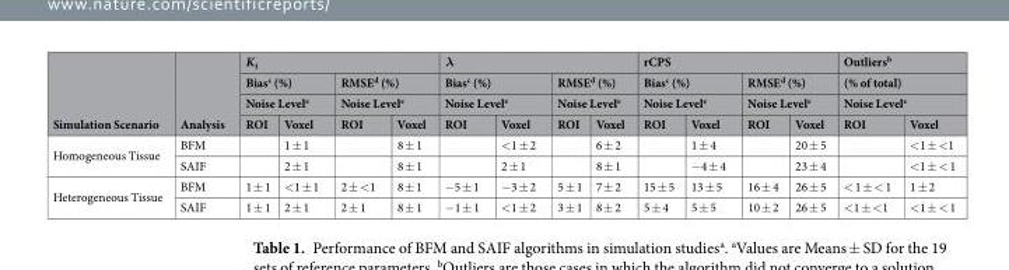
<table><thead><tr><td rowspan="4">Simulation Scenario</td><td rowspan="4">Analysis</td><td colspan="4">K<sub>1</sub></td><td colspan="4">λ</td><td colspan="4">rCPS</td><td rowspan="3" colspan="2">Outliers<sup>b</sup> (% of total) Noise Level<sup>e</sup></td></tr><tr><td rowspan="2" colspan="2">Bias<sup>c</sup> (%) Noise Level<sup>e</sup></td><td rowspan="2" colspan="2">RMSE<sup>d</sup> (%) Noise Level<sup>e</sup></td><td rowspan="2" colspan="2">Bias<sup>c</sup> (%) Noise Level<sup>e</sup></td><td rowspan="2" colspan="2">RMSE<sup>d</sup> (%) Noise Level<sup>e</sup></td><td rowspan="2" colspan="2">Bias<sup>c</sup> (%) Noise Level<sup>e</sup></td><td rowspan="2" colspan="2">RMSE<sup>d</sup> (%) Noise Level<sup>e</sup></td></tr><tr></tr><tr><td>ROI</td><td>Voxel</td><td>ROI</td><td>Voxel</td><td>ROI</td><td>Voxel</td><td>ROI</td><td>Voxel</td><td>ROI</td><td>Voxel</td><td>ROI</td><td>Voxel</td><td>ROI</td><td>Voxel</td></tr></thead><tbody><tr><td rowspan="2">Homogeneous Tissue</td><td>BFM</td><td></td><td>1 ± 1</td><td></td><td>8 ± 1</td><td></td><td>&lt;1 ± 2</td><td></td><td>6 ± 2</td><td></td><td>1 ± 4</td><td></td><td>20 ± 5</td><td></td><td>&lt;1 ± &lt;1</td></tr><tr><td>SAIF</td><td></td><td>2 ± 1</td><td></td><td>8 ± 1</td><td></td><td>2 ± 1</td><td></td><td>8 ± 1</td><td></td><td>−4 ± 4</td><td></td><td>23 ± 4</td><td></td><td>&lt;1 ± &lt; 1</td></tr><tr><td rowspan="2">Heterogeneous Tissue</td><td>BFM</td><td>1 ± 1</td><td>&lt;1 ± 1</td><td>2 ± &lt;1</td><td>8 ± 1</td><td>−5 ± 1</td><td>−3 ± 2</td><td>5 ± 1</td><td>7 ± 2</td><td>15 ± 5</td><td>13 ± 5</td><td>16 ± 4</td><td>26 ± 5</td><td>&lt; 1 ± &lt; 1</td><td>1 ± 2</td></tr><tr><td>SAIF</td><td>1 ± 1</td><td>2 ± 1</td><td>2 ± 1</td><td>8 ± 1</td><td>−1 ± 1</td><td>&lt;1 ± 2</td><td>3 ± 1</td><td>8 ± 2</td><td>5 ± 4</td><td>5 ± 5</td><td>10 ± 2</td><td>26 ± 5</td><td>&lt;1 ± &lt;1</td><td>&lt;1 ± &lt; 1</td></tr></tbody></table>